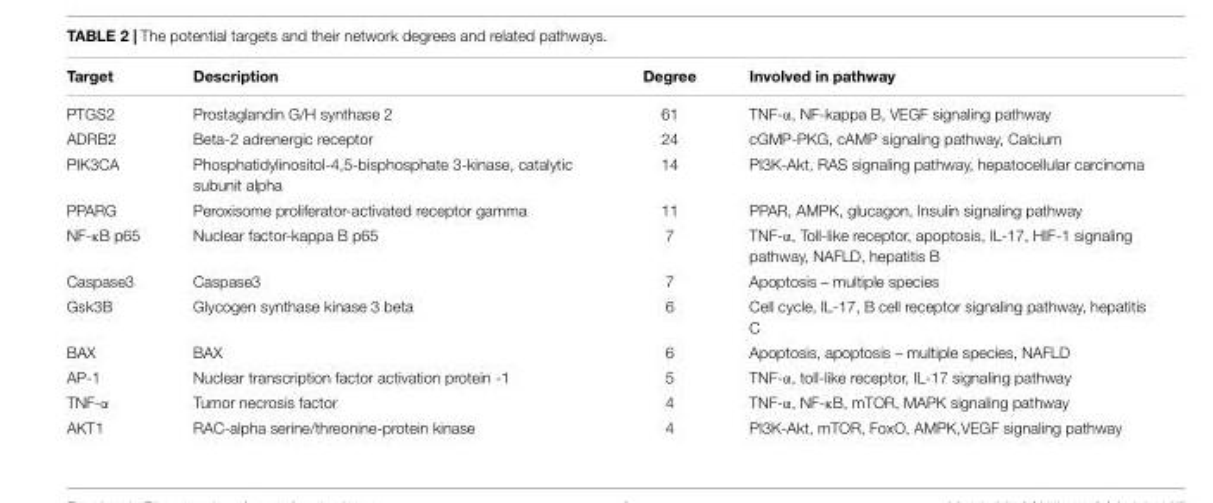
<table><thead><tr><td>Target</td><td>Description</td><td>Degree</td><td>Involved in pathway</td></tr></thead><tbody><tr><td>PTGS2</td><td>Prostaglandin G/H synthase 2</td><td>61</td><td>TNF-α, NF-kappa B, VEGF signaling pathway</td></tr><tr><td>ADRB2</td><td>Beta-2 adrenergic receptor</td><td>24</td><td>cGMP-PKG, cAMP signaling pathway, Calcium</td></tr><tr><td>PIK3CA</td><td>Phosphatidylinositol-4,5-bisphosphate 3-kinase, catalytic subunit alpha</td><td>14</td><td>PI3K-Akt, RAS signaling pathway, hepatocellular carcinoma</td></tr><tr><td>PPARG</td><td>Peroxisome proliferator-activated receptor gamma</td><td>11</td><td>PPAR, AMPK, glucagon, Insulin signaling pathway</td></tr><tr><td>NF-κB p65</td><td>Nuclear factor-kappa B p65</td><td>7</td><td>TNF-α, Toll-like receptor, apoptosis, IL-17, HIF-1 signaling pathway, NAFLD, hepatitis B</td></tr><tr><td>Caspase3</td><td>Caspase3</td><td>7</td><td>Apoptosis – multiple species</td></tr><tr><td>Gsk3B</td><td>Glycogen synthase kinase 3 beta</td><td>6</td><td>Cell cycle, IL-17, B cell receptor signaling pathway, hepatitis C</td></tr><tr><td>BAX</td><td>BAX</td><td>6</td><td>Apoptosis, apoptosis – multiple species, NAFLD</td></tr><tr><td>AP-1</td><td>Nuclear transcription factor activation protein -1</td><td>5</td><td>TNF-α, toll-like receptor, IL-17 signaling pathway</td></tr><tr><td>TNF-α</td><td>Tumor necrosis factor</td><td>4</td><td>TNF-α, NF-κB, mTOR, MAPK signaling pathway</td></tr><tr><td>AKT1</td><td>RAC-alpha serine/threonine-protein kinase</td><td>4</td><td>PI3K-Akt, mTOR, FoxO, AMPK,VEGF signaling pathway</td></tr></tbody></table>